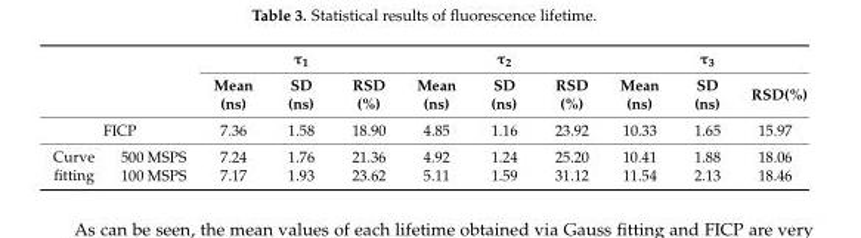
<table><thead><tr><td rowspan="2"></td><td rowspan="2"></td><td colspan="3">τ<sub>1</sub></td><td colspan="3">τ<sub>2</sub></td><td colspan="3">τ<sub>3</sub></td></tr><tr><td>Mean (ns)</td><td>SD (ns)</td><td>RSD (%)</td><td>Mean (ns)</td><td>SD (ns)</td><td>RSD (%)</td><td>Mean (ns)</td><td>SD (ns)</td><td>RSD(%)</td></tr></thead><tbody><tr><td colspan="2">FICP</td><td>7.36</td><td>1.58</td><td>18.90</td><td>4.85</td><td>1.16</td><td>23.92</td><td>10.33</td><td>1.65</td><td>15.97</td></tr><tr><td rowspan="2">Curve fitting</td><td>500 MSPS</td><td>7.24</td><td>1.76</td><td>21.36</td><td>4.92</td><td>1.24</td><td>25.20</td><td>10.41</td><td>1.88</td><td>18.06</td></tr><tr><td>100 MSPS</td><td>7.17</td><td>1.93</td><td>23.62</td><td>5.11</td><td>1.59</td><td>31.12</td><td>11.54</td><td>2.13</td><td>18.46</td></tr></tbody></table>